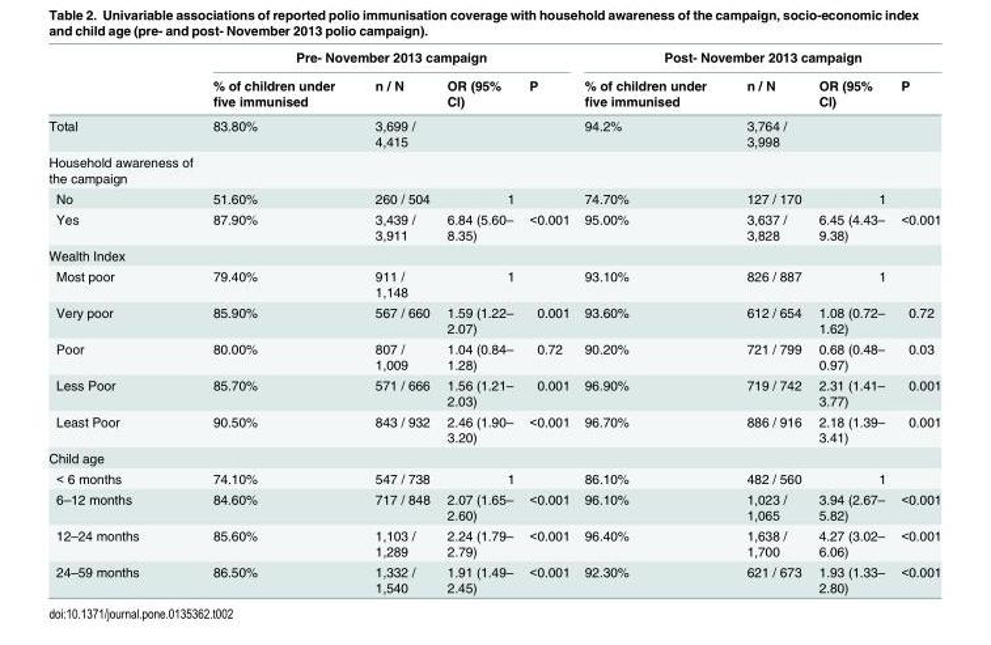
<table><thead><tr><td rowspan="2"></td><td colspan="4">Pre- November 2013 campaign</td><td colspan="4">Post- November 2013 campaign</td></tr><tr><td>% of children under five immunised</td><td>n / N</td><td>OR (95% CI)</td><td>P</td><td>% of children under five immunised</td><td>n / N</td><td>OR (95% CI)</td><td>P</td></tr></thead><tbody><tr><td>Total</td><td>83.80%</td><td>3,699 / 4,415</td><td></td><td></td><td>94.2%</td><td>3,764 / 3,998</td><td></td><td></td></tr><tr><td colspan="9">Household awareness of the campaign</td></tr><tr><td>No</td><td>51.60%</td><td>260 / 504</td><td>1</td><td></td><td>74.70%</td><td>127 / 170</td><td>1</td><td></td></tr><tr><td>Yes</td><td>87.90%</td><td>3,439 / 3,911</td><td>6.84 (5.60– 8.35)</td><td>&lt;0.001</td><td>95.00%</td><td>3,637 / 3,828</td><td>6.45 (4.43– 9.38)</td><td>&lt;0.001</td></tr><tr><td colspan="9">Wealth Index</td></tr><tr><td>Most poor</td><td>79.40%</td><td>911 / 1,148</td><td>1</td><td></td><td>93.10%</td><td>826 / 887</td><td>1</td><td></td></tr><tr><td>Very poor</td><td>85.90%</td><td>567 / 660</td><td>1.59 (1.22– 2.07)</td><td>0.001</td><td>93.60%</td><td>612 / 654</td><td>1.08 (0.72– 1.62)</td><td>0.72</td></tr><tr><td>Poor</td><td>80.00%</td><td>807 / 1,009</td><td>1.04 (0.84– 1.28)</td><td>0.72</td><td>90.20%</td><td>721 / 799</td><td>0.68 (0.48– 0.97)</td><td>0.03</td></tr><tr><td>Less Poor</td><td>85.70%</td><td>571 / 666</td><td>1.56 (1.21– 2.03)</td><td>0.001</td><td>96.90%</td><td>719 / 742</td><td>2.31 (1.41– 3.77)</td><td>0.001</td></tr><tr><td>Least Poor</td><td>90.50%</td><td>843 / 932</td><td>2.46 (1.90– 3.20)</td><td>&lt;0.001</td><td>96.70%</td><td>886 / 916</td><td>2.18 (1.39– 3.41)</td><td>0.001</td></tr><tr><td colspan="9">Child age</td></tr><tr><td>&lt; 6 months</td><td>74.10%</td><td>547 / 738</td><td>1</td><td></td><td>86.10%</td><td>482 / 560</td><td>1</td><td></td></tr><tr><td>6–12 months</td><td>84.60%</td><td>717 / 848</td><td>2.07 (1.65– 2.60)</td><td>&lt;0.001</td><td>96.10%</td><td>1,023 / 1,065</td><td>3.94 (2.67– 5.82)</td><td>&lt;0.001</td></tr><tr><td>12–24 months</td><td>85.60%</td><td>1,103 / 1,289</td><td>2.24 (1.79– 2.79)</td><td>&lt;0.001</td><td>96.40%</td><td>1,638 / 1,700</td><td>4.27 (3.02– 6.06)</td><td>&lt;0.001</td></tr><tr><td>24–59 months</td><td>86.50%</td><td>1,332 / 1,540</td><td>1.91 (1.49– 2.45)</td><td>&lt;0.001</td><td>92.30%</td><td>621 / 673</td><td>1.93 (1.33– 2.80)</td><td>&lt;0.001</td></tr></tbody></table>